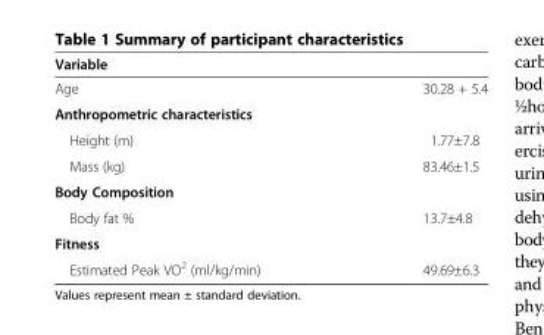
<table><thead><tr><td>Variable</td><td></td></tr></thead><tbody><tr><td>Age</td><td>30.28 + 5.4</td></tr><tr><td colspan="2">Anthropometric characteristics</td></tr><tr><td>Height (m)</td><td>1.77±7.8</td></tr><tr><td>Mass (kg)</td><td>83.46±1.5</td></tr><tr><td colspan="2">Body Composition</td></tr><tr><td>Body fat %</td><td>13.7±4.8</td></tr><tr><td colspan="2">Fitness</td></tr><tr><td>Estimated Peak VO<sup>2</sup> (ml/kg/min)</td><td>49.69±6.3</td></tr></tbody></table>